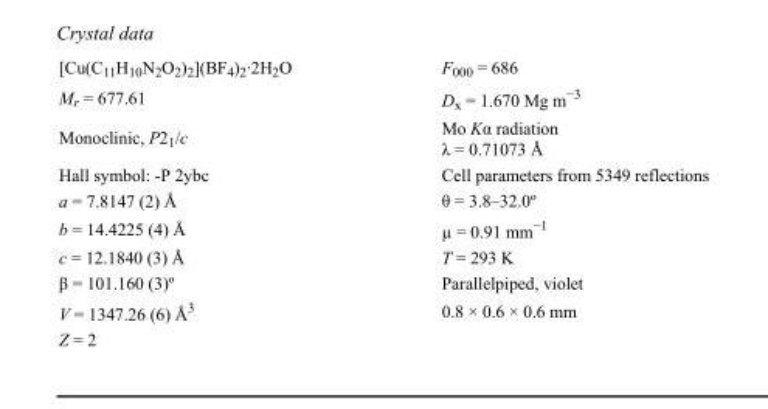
<table><tbody><tr><td>[Cu(C<sub>11</sub>H<sub>10</sub>N<sub>2</sub>O<sub>2</sub>)<sub>2</sub>](BF<sub>4</sub>)<sub>2</sub>·2H<sub>2</sub>O</td><td>F000 = 686</td></tr><tr><td>M<sub>r</sub> = 677.61</td><td>D<sub>x</sub> = 1.670 Mg m<sup>−3</sup></td></tr><tr><td>Monoclinic, P2<sub>1</sub>/c</td><td>Mo Kα radiation λ = 0.71073 Å</td></tr><tr><td>Hall symbol: -P 2ybc</td><td>Cell parameters from 5349 reflections</td></tr><tr><td>a = 7.8147 (2) Å</td><td>θ = 3.8–32.0º</td></tr><tr><td>b = 14.4225 (4) Å</td><td>µ = 0.91 mm<sup>−1</sup></td></tr><tr><td>c = 12.1840 (3) Å</td><td>T = 293 K</td></tr><tr><td>β = 101.160 (3)º</td><td>Parallelpiped, violet</td></tr><tr><td>V = 1347.26 (6) Å<sup>3</sup></td><td>0.8 × 0.6 × 0.6 mm</td></tr><tr><td>Z = 2</td><td></td></tr></tbody></table>